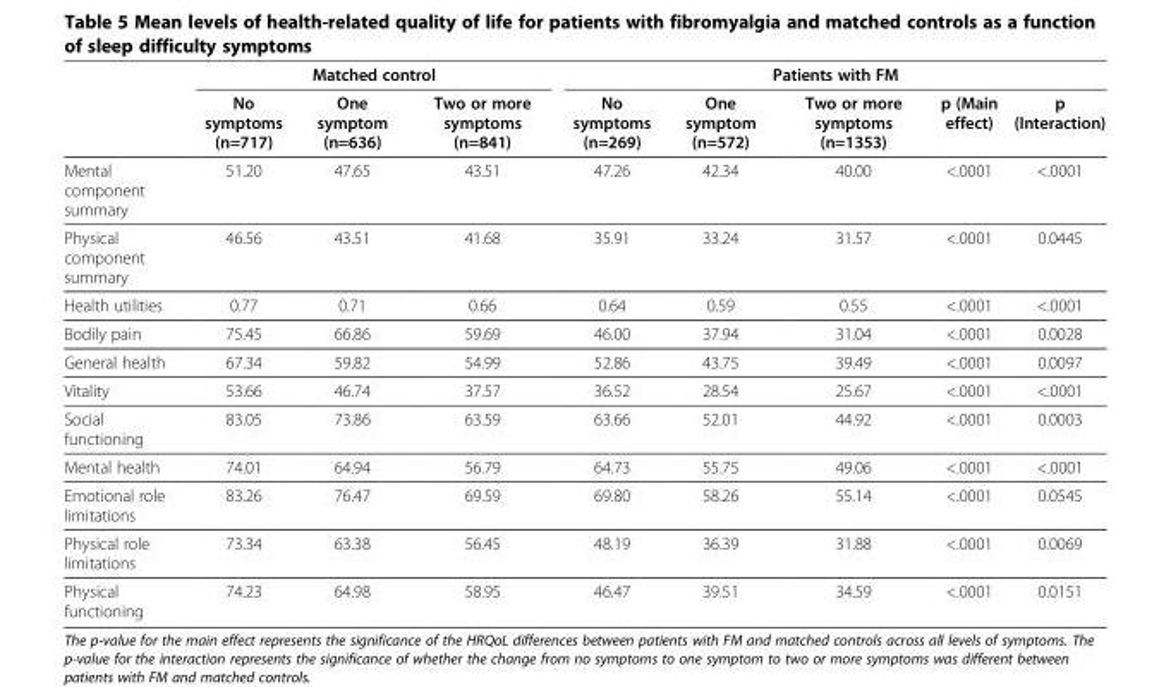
<table><thead><tr><td rowspan="2"></td><td colspan="3">Matched control</td><td colspan="5">Patients with FM</td></tr><tr><td>No symptoms (n=717)</td><td>One symptom (n=636)</td><td>Two or more symptoms (n=841)</td><td>No symptoms (n=269)</td><td>One symptom (n=572)</td><td>Two or more symptoms (n=1353)</td><td>p (Main effect)</td><td>p (Interaction)</td></tr></thead><tbody><tr><td>Mental component summary</td><td>51.20</td><td>47.65</td><td>43.51</td><td>47.26</td><td>42.34</td><td>40.00</td><td>&lt;.0001</td><td>&lt;.0001</td></tr><tr><td>Physical component summary</td><td>46.56</td><td>43.51</td><td>41.68</td><td>35.91</td><td>33.24</td><td>31.57</td><td>&lt;.0001</td><td>0.0445</td></tr><tr><td>Health utilities</td><td>0.77</td><td>0.71</td><td>0.66</td><td>0.64</td><td>0.59</td><td>0.55</td><td>&lt;.0001</td><td>&lt;.0001</td></tr><tr><td>Bodily pain</td><td>75.45</td><td>66.86</td><td>59.69</td><td>46.00</td><td>37.94</td><td>31.04</td><td>&lt;.0001</td><td>0.0028</td></tr><tr><td>General health</td><td>67.34</td><td>59.82</td><td>54.99</td><td>52.86</td><td>43.75</td><td>39.49</td><td>&lt;.0001</td><td>0.0097</td></tr><tr><td>Vitality</td><td>53.66</td><td>46.74</td><td>37.57</td><td>36.52</td><td>28.54</td><td>25.67</td><td>&lt;.0001</td><td>&lt;.0001</td></tr><tr><td>Social functioning</td><td>83.05</td><td>73.86</td><td>63.59</td><td>63.66</td><td>52.01</td><td>44.92</td><td>&lt;.0001</td><td>0.0003</td></tr><tr><td>Mental health</td><td>74.01</td><td>64.94</td><td>56.79</td><td>64.73</td><td>55.75</td><td>49.06</td><td>&lt;.0001</td><td>&lt;.0001</td></tr><tr><td>Emotional role limitations</td><td>83.26</td><td>76.47</td><td>69.59</td><td>69.80</td><td>58.26</td><td>55.14</td><td>&lt;.0001</td><td>0.0545</td></tr><tr><td>Physical role limitations</td><td>73.34</td><td>63.38</td><td>56.45</td><td>48.19</td><td>36.39</td><td>31.88</td><td>&lt;.0001</td><td>0.0069</td></tr><tr><td>Physical functioning</td><td>74.23</td><td>64.98</td><td>58.95</td><td>46.47</td><td>39.51</td><td>34.59</td><td>&lt;.0001</td><td>0.0151</td></tr></tbody></table>